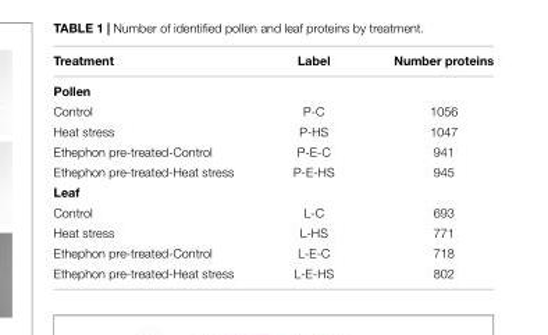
<table><thead><tr><td>Treatment</td><td>Label</td><td>Number proteins</td></tr></thead><tbody><tr><td colspan="3">Pollen</td></tr><tr><td>Control</td><td>P-C</td><td>1056</td></tr><tr><td>Heat stress</td><td>P-HS</td><td>1047</td></tr><tr><td>Ethephon pre-treated-Control</td><td>P-E-C</td><td>941</td></tr><tr><td>Ethephon pre-treated-Heat stress</td><td>P-E-HS</td><td>945</td></tr><tr><td colspan="3">Leaf</td></tr><tr><td>Control</td><td>L-C</td><td>693</td></tr><tr><td>Heat stress</td><td>L-HS</td><td>771</td></tr><tr><td>Ethephon pre-treated-Control</td><td>L-E-C</td><td>718</td></tr><tr><td>Ethephon pre-treated-Heat stress</td><td>L-E-HS</td><td>802</td></tr></tbody></table>